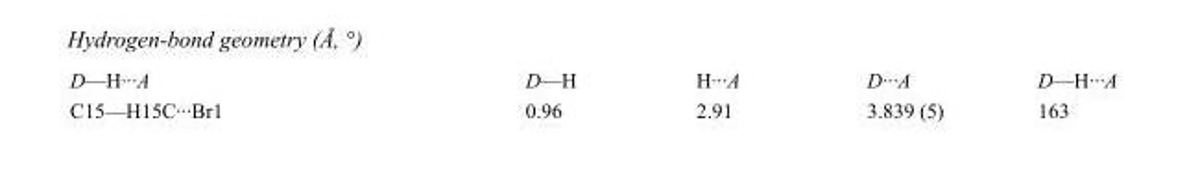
<table><tbody><tr><td>D—H···A</td><td>D—H</td><td>H···A</td><td>D···A</td><td>D—H···A</td></tr><tr><td>C15—H15C···Br1</td><td>0.96</td><td>2.91</td><td>3.839 (5)</td><td>163</td></tr></tbody></table>